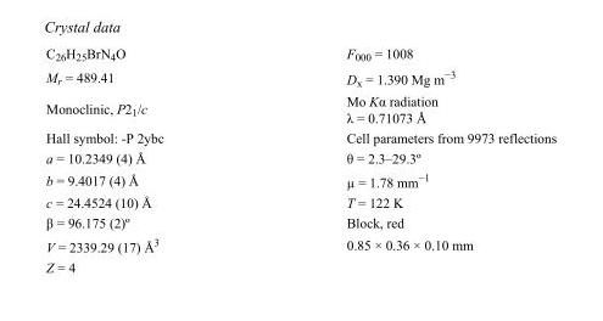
<table><tbody><tr><td>C<sub>26</sub>H<sub>25</sub>BrN<sub>4</sub>O</td><td>F000 = 1008</td></tr><tr><td>M<sub>r</sub> = 489.41</td><td>D<sub>x</sub> = 1.390 Mg m<sup>−3</sup></td></tr><tr><td>Monoclinic, P2<sub>1</sub>/c</td><td>Mo Kα radiation λ = 0.71073 Å</td></tr><tr><td>Hall symbol: -P 2ybc</td><td>Cell parameters from 9973 reflections</td></tr><tr><td>a = 10.2349 (4) Å</td><td>θ = 2.3–29.3º</td></tr><tr><td>b = 9.4017 (4) Å</td><td>µ = 1.78 mm<sup>−1</sup></td></tr><tr><td>c = 24.4524 (10) Å</td><td>T = 122 K</td></tr><tr><td>β = 96.175 (2)º</td><td>Block, red</td></tr><tr><td>V = 2339.29 (17) Å<sup>3</sup></td><td>0.85 × 0.36 × 0.10 mm</td></tr><tr><td>Z = 4</td><td></td></tr></tbody></table>